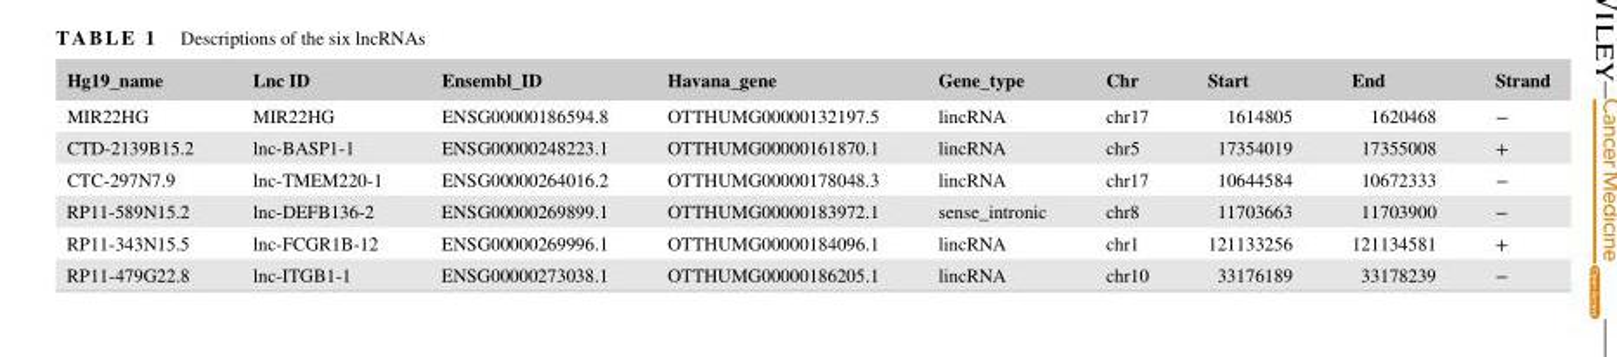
<table><thead><tr><td>Hg19_name</td><td>Lnc ID</td><td>Ensembl_ID</td><td>Havana_gene</td><td>Gene_type</td><td>Chr</td><td>Start</td><td>End</td><td>Strand</td></tr></thead><tbody><tr><td>MIR22HG</td><td>MIR22HG</td><td>ENSG00000186594.8</td><td>OTTHUMG00000132197.5</td><td>lincRNA</td><td>chr17</td><td>1614805</td><td>1620468</td><td>−</td></tr><tr><td>CTD‐2139B15.2</td><td>lnc‐BASP1‐1</td><td>ENSG00000248223.1</td><td>OTTHUMG00000161870.1</td><td>lincRNA</td><td>chr5</td><td>17354019</td><td>17355008</td><td>+</td></tr><tr><td>CTC‐297N7.9</td><td>lnc‐TMEM220‐1</td><td>ENSG00000264016.2</td><td>OTTHUMG00000178048.3</td><td>lincRNA</td><td>chr17</td><td>10644584</td><td>10672333</td><td>−</td></tr><tr><td>RP11‐589N15.2</td><td>lnc‐DEFB136‐2</td><td>ENSG00000269899.1</td><td>OTTHUMG00000183972.1</td><td>sense_intronic</td><td>chr8</td><td>11703663</td><td>11703900</td><td>−</td></tr><tr><td>RP11‐343N15.5</td><td>lnc‐FCGR1B‐12</td><td>ENSG00000269996.1</td><td>OTTHUMG00000184096.1</td><td>lincRNA</td><td>chr1</td><td>121133256</td><td>121134581</td><td>+</td></tr><tr><td>RP11‐479G22.8</td><td>lnc‐ITGB1‐1</td><td>ENSG00000273038.1</td><td>OTTHUMG00000186205.1</td><td>lincRNA</td><td>chr10</td><td>33176189</td><td>33178239</td><td>−</td></tr></tbody></table>